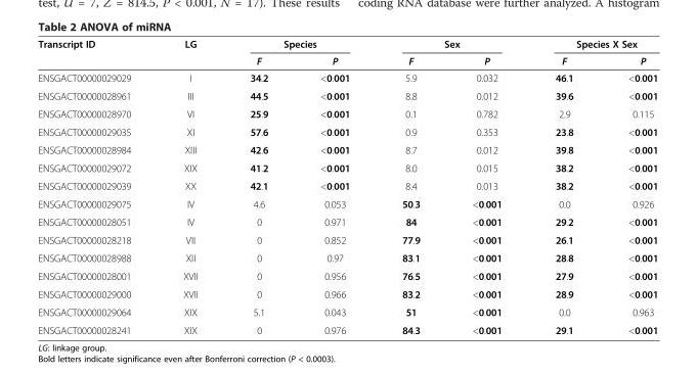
<table><thead><tr><td rowspan="2">Transcript ID</td><td rowspan="2">LG</td><td colspan="2">Species</td><td colspan="2">Sex</td><td colspan="2">Species X Sex</td></tr><tr><td>F</td><td>P</td><td>F</td><td>P</td><td>F</td><td>P</td></tr></thead><tbody><tr><td>ENSGACT00000029029</td><td>I</td><td>34.2</td><td>&lt;0.001</td><td>5.9</td><td>0.032</td><td>46.1</td><td>&lt;0.001</td></tr><tr><td>ENSGACT00000028961</td><td>III</td><td>44.5</td><td>&lt;0.001</td><td>8.8</td><td>0.012</td><td>39.6</td><td>&lt;0.001</td></tr><tr><td>ENSGACT00000028970</td><td>VI</td><td>25.9</td><td>&lt;0.001</td><td>0.1</td><td>0.782</td><td>2.9</td><td>0.115</td></tr><tr><td>ENSGACT00000029035</td><td>XI</td><td>57.6</td><td>&lt;0.001</td><td>0.9</td><td>0.353</td><td>23.8</td><td>&lt;0.001</td></tr><tr><td>ENSGACT00000028984</td><td>XIII</td><td>42.6</td><td>&lt;0.001</td><td>8.7</td><td>0.012</td><td>39.8</td><td>&lt;0.001</td></tr><tr><td>ENSGACT00000029072</td><td>XIX</td><td>41.2</td><td>&lt;0.001</td><td>8.0</td><td>0.015</td><td>38.2</td><td>&lt;0.001</td></tr><tr><td>ENSGACT00000029039</td><td>XX</td><td>42.1</td><td>&lt;0.001</td><td>8.4</td><td>0.013</td><td>38.2</td><td>&lt;0.001</td></tr><tr><td>ENSGACT00000029075</td><td>IV</td><td>4.6</td><td>0.053</td><td>50.3</td><td>&lt;0.001</td><td>0.0</td><td>0.926</td></tr><tr><td>ENSGACT00000028051</td><td>IV</td><td>0</td><td>0.971</td><td>84</td><td>&lt;0.001</td><td>29.2</td><td>&lt;0.001</td></tr><tr><td>ENSGACT00000028218</td><td>VII</td><td>0</td><td>0.852</td><td>77.9</td><td>&lt;0.001</td><td>26.1</td><td>&lt;0.001</td></tr><tr><td>ENSGACT00000028988</td><td>XII</td><td>0</td><td>0.97</td><td>83.1</td><td>&lt;0.001</td><td>28.8</td><td>&lt;0.001</td></tr><tr><td>ENSGACT00000028001</td><td>XVII</td><td>0</td><td>0.956</td><td>76.5</td><td>&lt;0.001</td><td>27.9</td><td>&lt;0.001</td></tr><tr><td>ENSGACT00000029000</td><td>XVII</td><td>0</td><td>0.966</td><td>83.2</td><td>&lt;0.001</td><td>28.9</td><td>&lt;0.001</td></tr><tr><td>ENSGACT00000029064</td><td>XIX</td><td>5.1</td><td>0.043</td><td>51</td><td>&lt;0.001</td><td>0.0</td><td>0.963</td></tr><tr><td>ENSGACT00000028241</td><td>XIX</td><td>0</td><td>0.976</td><td>84.3</td><td>&lt;0.001</td><td>29.1</td><td>&lt;0.001</td></tr></tbody></table>